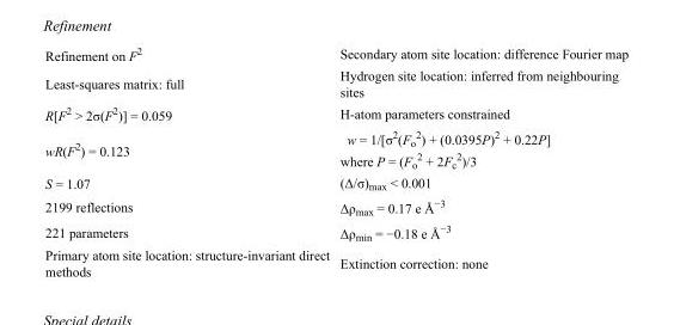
<table><tbody><tr><td>Refinement on F<sup>2</sup></td><td>Secondary atom site location: difference Fourier map</td></tr><tr><td>Least-squares matrix: full</td><td>Hydrogen site location: inferred from neighbouring sites</td></tr><tr><td>R[F<sup>2</sup> &gt; 2σ(F<sup>2</sup>)] = 0.059</td><td>H-atom parameters constrained</td></tr><tr><td>wR(F<sup>2</sup>) = 0.123</td><td>w = 1/[σ<sup>2</sup>(F<sub>o</sub> <sup>2</sup>) + (0.0395P)<sup>2</sup> + 0.22P] where P = (F<sub>o</sub> <sup>2</sup> + 2F<sub>c</sub> <sup>2</sup>)/3</td></tr><tr><td>S = 1.07</td><td>(Δ/σ)<sub>max</sub> &lt; 0.001</td></tr><tr><td>2199 reflections</td><td>Δρ<sub>max</sub> = 0.17 e Å<sup>−3</sup></td></tr><tr><td>221 parameters</td><td>Δρ<sub>min</sub> = −0.18 e Å<sup>−3</sup></td></tr><tr><td>Primary atom site location: structure-invariant direct methods</td><td>Extinction correction: none</td></tr></tbody></table>